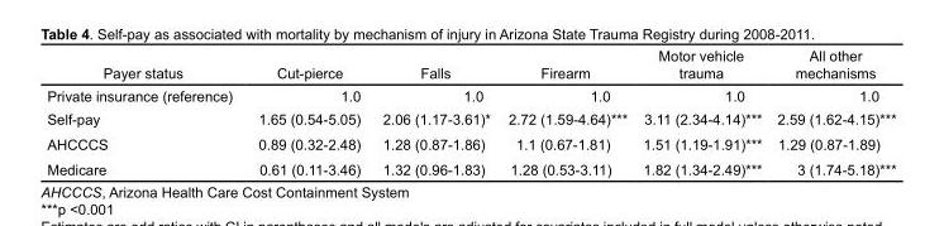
<table><thead><tr><td>Payer status</td><td>Cut-pierce</td><td>Falls</td><td>Firearm</td><td>Motor vehicle trauma</td><td>All other mechanisms</td></tr></thead><tbody><tr><td>Private insurance (reference)</td><td>1.0</td><td>1.0</td><td>1.0</td><td>1.0</td><td>1.0</td></tr><tr><td>Self-pay</td><td>1.65 (0.54-5.05)</td><td>2.06 (1.17-3.61)*</td><td>2.72 (1.59-4.64)***</td><td>3.11 (2.34-4.14)***</td><td>2.59 (1.62-4.15)***</td></tr><tr><td>AHCCCS</td><td>0.89 (0.32-2.48)</td><td>1.28 (0.87-1.86)</td><td>1.1 (0.67-1.81)</td><td>1.51 (1.19-1.91)***</td><td>1.29 (0.87-1.89)</td></tr><tr><td>Medicare</td><td>0.61 (0.11-3.46)</td><td>1.32 (0.96-1.83)</td><td>1.28 (0.53-3.11)</td><td>1.82 (1.34-2.49)***</td><td>3 (1.74-5.18)***</td></tr></tbody></table>